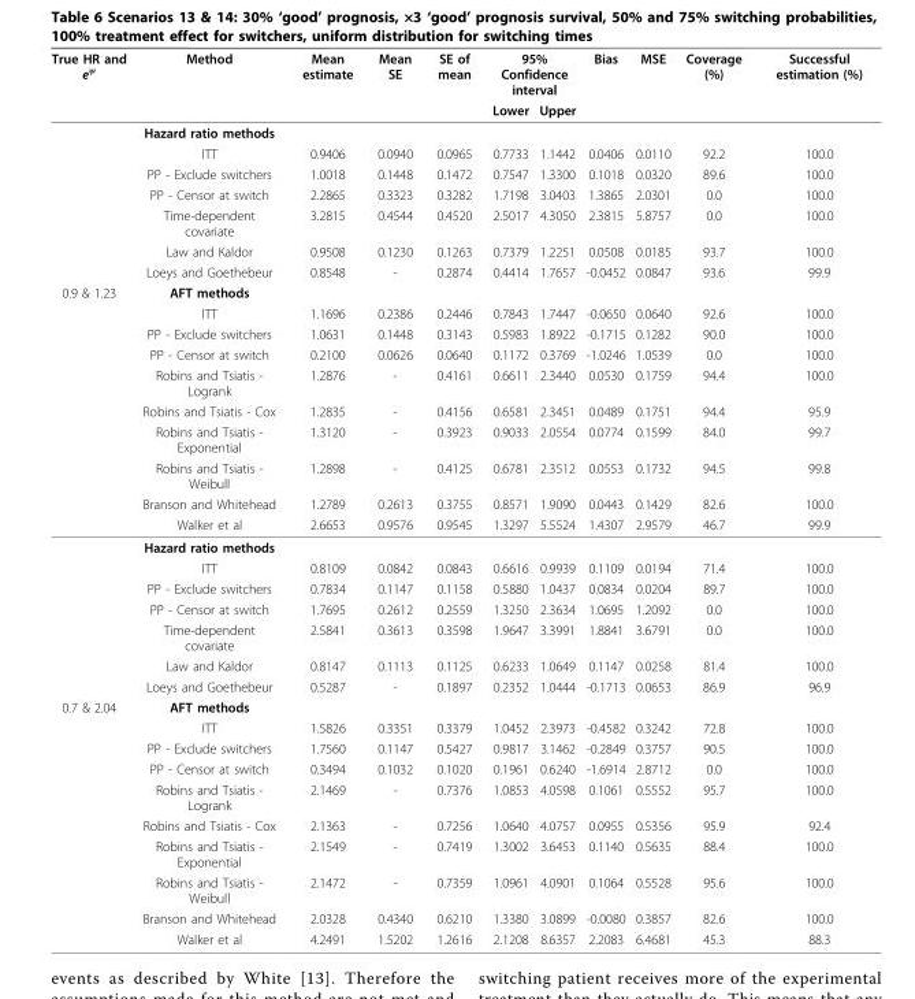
<table><thead><tr><td rowspan="2">True HR and e<sup>ψ</sup></td><td rowspan="2">Method</td><td rowspan="2">Mean estimate</td><td rowspan="2">Mean SE</td><td rowspan="2">SE of mean</td><td colspan="2">95% Confidence interval</td><td rowspan="2">Bias</td><td rowspan="2">MSE</td><td rowspan="2">Coverage (%)</td><td rowspan="2">Successful estimation (%)</td></tr><tr><td>Lower</td><td>Upper</td></tr></thead><tbody><tr><td></td><td>Hazard ratio methods</td><td></td><td></td><td></td><td></td><td></td><td></td><td></td><td></td><td></td></tr><tr><td></td><td>ITT</td><td>0.9406</td><td>0.0940</td><td>0.0965</td><td>0.7733</td><td>1.1442</td><td>0.0406</td><td>0.0110</td><td>92.2</td><td>100.0</td></tr><tr><td></td><td>PP - Exclude switchers</td><td>1.0018</td><td>0.1448</td><td>0.1472</td><td>0.7547</td><td>1.3300</td><td>0.1018</td><td>0.0320</td><td>89.6</td><td>100.0</td></tr><tr><td></td><td>PP - Censor at switch</td><td>2.2865</td><td>0.3323</td><td>0.3282</td><td>1.7198</td><td>3.0403</td><td>1.3865</td><td>2.0301</td><td>0.0</td><td>100.0</td></tr><tr><td></td><td>Time-dependent covariate</td><td>3.2815</td><td>0.4544</td><td>0.4520</td><td>2.5017</td><td>4.3050</td><td>2.3815</td><td>5.8757</td><td>0.0</td><td>100.0</td></tr><tr><td></td><td>Law and Kaldor</td><td>0.9508</td><td>0.1230</td><td>0.1263</td><td>0.7379</td><td>1.2251</td><td>0.0508</td><td>0.0185</td><td>93.7</td><td>100.0</td></tr><tr><td></td><td>Loeys and Goethebeur</td><td>0.8548</td><td>-</td><td>0.2874</td><td>0.4414</td><td>1.7657</td><td>-0.0452</td><td>0.0847</td><td>93.6</td><td>99.9</td></tr><tr><td rowspan="17">0.9 &amp; 1.23</td><td>AFT methods</td><td></td><td></td><td></td><td></td><td></td><td></td><td></td><td></td><td></td></tr><tr><td>ITT</td><td>1.1696</td><td>0.2386</td><td>0.2446</td><td>0.7843</td><td>1.7447</td><td>-0.0650</td><td>0.0640</td><td>92.6</td><td>100.0</td></tr><tr><td>PP - Exclude switchers</td><td>1.0631</td><td>0.1448</td><td>0.3143</td><td>0.5983</td><td>1.8922</td><td>-0.1715</td><td>0.1282</td><td>90.0</td><td>100.0</td></tr><tr><td>PP - Censor at switch</td><td>0.2100</td><td>0.0626</td><td>0.0640</td><td>0.1172</td><td>0.3769</td><td>-1.0246</td><td>1.0539</td><td>0.0</td><td>100.0</td></tr><tr><td>Robins and Tsiatis - Logrank</td><td>1.2876</td><td>-</td><td>0.4161</td><td>0.6611</td><td>2.3440</td><td>0.0530</td><td>0.1759</td><td>94.4</td><td>100.0</td></tr><tr><td>Robins and Tsiatis - Cox</td><td>1.2835</td><td>-</td><td>0.4156</td><td>0.6581</td><td>2.3451</td><td>0.0489</td><td>0.1751</td><td>94.4</td><td>95.9</td></tr><tr><td>Robins and Tsiatis - Exponential</td><td>1.3120</td><td>-</td><td>0.3923</td><td>0.9033</td><td>2.0554</td><td>0.0774</td><td>0.1599</td><td>84.0</td><td>99.7</td></tr><tr><td>Robins and Tsiatis - Weibull</td><td>1.2898</td><td>-</td><td>0.4125</td><td>0.6781</td><td>2.3512</td><td>0.0553</td><td>0.1732</td><td>94.5</td><td>99.8</td></tr><tr><td>Branson and Whitehead</td><td>1.2789</td><td>0.2613</td><td>0.3755</td><td>0.8571</td><td>1.9090</td><td>0.0443</td><td>0.1429</td><td>82.6</td><td>100.0</td></tr><tr><td>Walker et al</td><td>2.6653</td><td>0.9576</td><td>0.9545</td><td>1.3297</td><td>5.5524</td><td>1.4307</td><td>2.9579</td><td>46.7</td><td>99.9</td></tr><tr><td>Hazard ratio methods</td><td></td><td></td><td></td><td></td><td></td><td></td><td></td><td></td><td></td></tr><tr><td>ITT</td><td>0.8109</td><td>0.0842</td><td>0.0843</td><td>0.6616</td><td>0.9939</td><td>0.1109</td><td>0.0194</td><td>71.4</td><td>100.0</td></tr><tr><td>PP - Exclude switchers</td><td>0.7834</td><td>0.1147</td><td>0.1158</td><td>0.5880</td><td>1.0437</td><td>0.0834</td><td>0.0204</td><td>89.7</td><td>100.0</td></tr><tr><td>PP - Censor at switch</td><td>1.7695</td><td>0.2612</td><td>0.2559</td><td>1.3250</td><td>2.3634</td><td>1.0695</td><td>1.2092</td><td>0.0</td><td>100.0</td></tr><tr><td>Time-dependent covariate</td><td>2.5841</td><td>0.3613</td><td>0.3598</td><td>1.9647</td><td>3.3991</td><td>1.8841</td><td>3.6791</td><td>0.0</td><td>100.0</td></tr><tr><td>Law and Kaldor</td><td>0.8147</td><td>0.1113</td><td>0.1125</td><td>0.6233</td><td>1.0649</td><td>0.1147</td><td>0.0258</td><td>81.4</td><td>100.0</td></tr><tr><td>Loeys and Goethebeur</td><td>0.5287</td><td>-</td><td>0.1897</td><td>0.2352</td><td>1.0444</td><td>-0.1713</td><td>0.0653</td><td>86.9</td><td>96.9</td></tr><tr><td rowspan="10">0.7 &amp; 2.04</td><td>AFT methods</td><td></td><td></td><td></td><td></td><td></td><td></td><td></td><td></td><td></td></tr><tr><td>ITT</td><td>1.5826</td><td>0.3351</td><td>0.3379</td><td>1.0452</td><td>2.3973</td><td>-0.4582</td><td>0.3242</td><td>72.8</td><td>100.0</td></tr><tr><td>PP - Exclude switchers</td><td>1.7560</td><td>0.1147</td><td>0.5427</td><td>0.9817</td><td>3.1462</td><td>-0.2849</td><td>0.3757</td><td>90.5</td><td>100.0</td></tr><tr><td>PP - Censor at switch</td><td>0.3494</td><td>0.1032</td><td>0.1020</td><td>0.1961</td><td>0.6240</td><td>-1.6914</td><td>2.8712</td><td>0.0</td><td>100.0</td></tr><tr><td>Robins and Tsiatis - Logrank</td><td>2.1469</td><td>-</td><td>0.7376</td><td>1.0853</td><td>4.0598</td><td>0.1061</td><td>0.5552</td><td>95.7</td><td>100.0</td></tr><tr><td>Robins and Tsiatis - Cox</td><td>2.1363</td><td>-</td><td>0.7256</td><td>1.0640</td><td>4.0757</td><td>0.0955</td><td>0.5356</td><td>95.9</td><td>92.4</td></tr><tr><td>Robins and Tsiatis - Exponential</td><td>2.1549</td><td>-</td><td>0.7419</td><td>1.3002</td><td>3.6453</td><td>0.1140</td><td>0.5635</td><td>88.4</td><td>100.0</td></tr><tr><td>Robins and Tsiatis - Weibull</td><td>2.1472</td><td>-</td><td>0.7359</td><td>1.0961</td><td>4.0901</td><td>0.1064</td><td>0.5528</td><td>95.6</td><td>100.0</td></tr><tr><td>Branson and Whitehead</td><td>2.0328</td><td>0.4340</td><td>0.6210</td><td>1.3380</td><td>3.0899</td><td>-0.0080</td><td>0.3857</td><td>82.6</td><td>100.0</td></tr><tr><td>Walker et al</td><td>4.2491</td><td>1.5202</td><td>1.2616</td><td>2.1208</td><td>8.6357</td><td>2.2083</td><td>6.4681</td><td>45.3</td><td>88.3</td></tr></tbody></table>